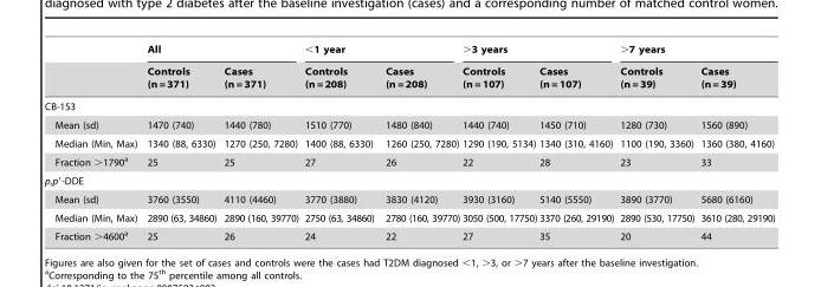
<table><thead><tr><td rowspan="2"></td><td colspan="2">All</td><td colspan="2">&lt;1 year</td><td colspan="2">&gt;3 years</td><td colspan="2">&gt;7 years</td></tr><tr><td>Controls (n = 371)</td><td>Cases (n = 371)</td><td>Controls (n = 208)</td><td>Cases (n = 208)</td><td>Controls (n = 107)</td><td>Cases (n = 107)</td><td>Controls (n = 39)</td><td>Cases (n = 39)</td></tr></thead><tbody><tr><td colspan="9">CB-153</td></tr><tr><td>Mean (sd)</td><td>1470 (740)</td><td>1440 (780)</td><td>1510 (770)</td><td>1480 (840)</td><td>1440 (740)</td><td>1450 (710)</td><td>1280 (730)</td><td>1560 (890)</td></tr><tr><td>Median (Min, Max)</td><td>1340 (88, 6330)</td><td>1270 (250, 7280)</td><td>1400 (88, 6330)</td><td>1260 (250, 7280)</td><td>1290 (190, 5134)</td><td>1340 (310, 4160)</td><td>1100 (190, 3360)</td><td>1360 (380, 4160)</td></tr><tr><td>Fraction &gt;1790<sup>a</sup></td><td>25</td><td>25</td><td>27</td><td>26</td><td>22</td><td>28</td><td>23</td><td>33</td></tr><tr><td colspan="9">p,p′-DDE</td></tr><tr><td>Mean (sd)</td><td>3760 (3550)</td><td>4110 (4460)</td><td>3770 (3880)</td><td>3830 (4120)</td><td>3930 (3160)</td><td>5140 (5550)</td><td>3890 (3770)</td><td>5680 (6160)</td></tr><tr><td>Median (Min, Max)</td><td>2890 (63, 34860)</td><td>2890 (160, 39770)</td><td>2750 (63, 34860)</td><td>2780 (160, 39770)</td><td>3050 (500, 17750)</td><td>3370 (260, 29190)</td><td>2890 (530, 17750)</td><td>3610 (280, 29190)</td></tr><tr><td>Fraction &gt;4600<sup>a</sup></td><td>25</td><td>26</td><td>24</td><td>22</td><td>27</td><td>35</td><td>20</td><td>44</td></tr></tbody></table>